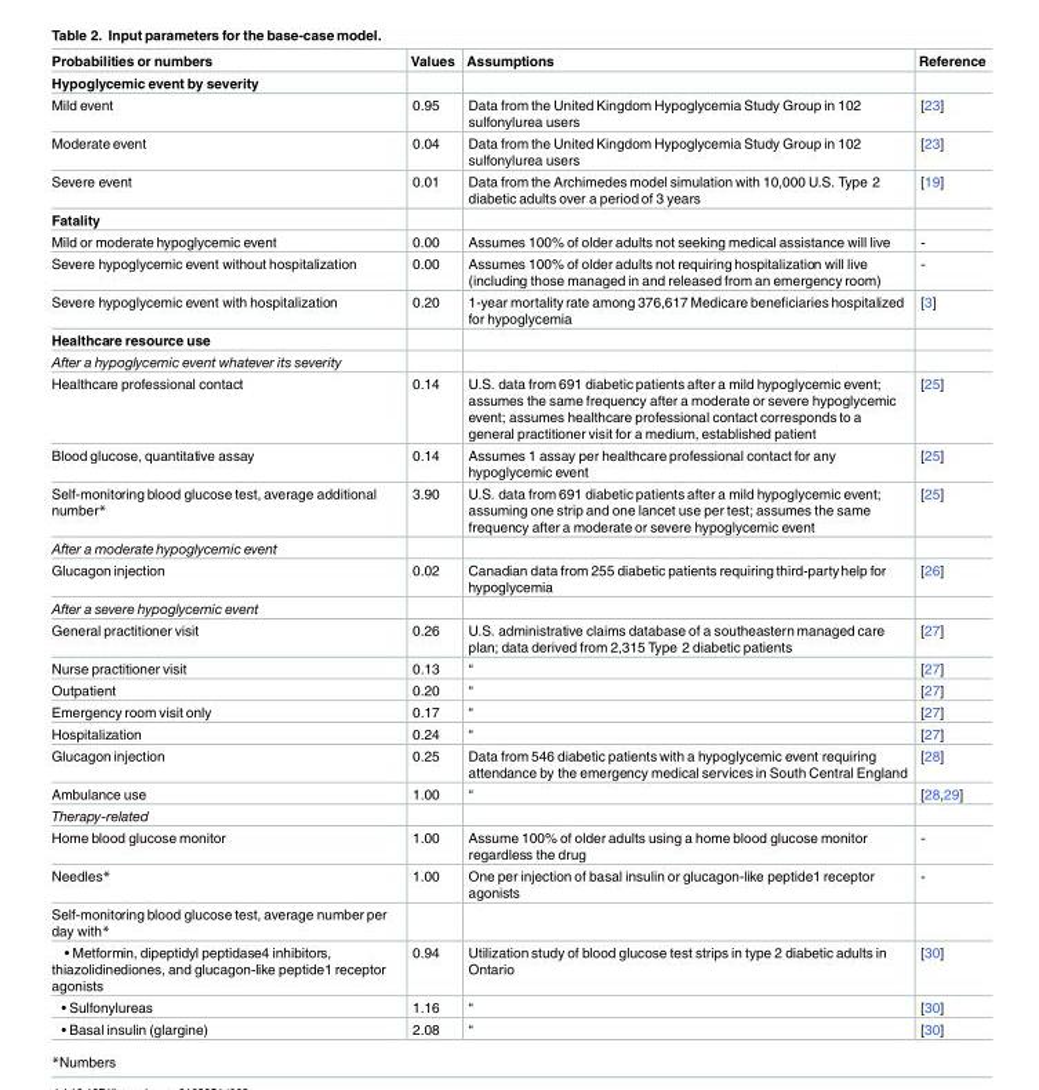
<table><thead><tr><td>Probabilities or numbers</td><td>Values</td><td>Assumptions</td><td>Reference</td></tr></thead><tbody><tr><td colspan="4">Hypoglycemic event by severity</td></tr><tr><td>Mild event</td><td>0.95</td><td>Data from the United Kingdom Hypoglycemia Study Group in 102 sulfonylurea users</td><td>[23]</td></tr><tr><td>Moderate event</td><td>0.04</td><td>Data from the United Kingdom Hypoglycemia Study Group in 102 sulfonylurea users</td><td>[23]</td></tr><tr><td>Severe event</td><td>0.01</td><td>Data from the Archimedes model simulation with 10,000 U.S. Type 2 diabetic adults over a period of 3 years</td><td>[19]</td></tr><tr><td colspan="4">Fatality</td></tr><tr><td>Mild or moderate hypoglycemic event</td><td>0.00</td><td>Assumes 100% of older adults not seeking medical assistance will live</td><td>-</td></tr><tr><td>Severe hypoglycemic event without hospitalization</td><td>0.00</td><td>Assumes 100% of older adults not requiring hospitalization will live (including those managed in and released from an emergency room)</td><td>-</td></tr><tr><td>Severe hypoglycemic event with hospitalization</td><td>0.20</td><td>1-year mortalityrate among 376,617 Medicare beneficiaries hospitalized for hypoglycemia</td><td>[3]</td></tr><tr><td colspan="4">Healthcare resource use</td></tr><tr><td colspan="4">After a hypoglycemic event whatever its severity</td></tr><tr><td>Healthcare professional contact</td><td>0.14</td><td>U.S. data from 691 diabetic patients after a mild hypoglycemic event; assumes the same frequency after a moderate or severe hypoglycemic event; assumes healthcare professional contact corresponds to a general practitioner visit for a medium, established patient</td><td>[25]</td></tr><tr><td>Blood glucose, quantitative assay</td><td>0.14</td><td>Assumes 1 assay per healthcare professional contact for any hypoglycemic event</td><td>[25]</td></tr><tr><td>Self-monitoring blood glucose test, average additional number*</td><td>3.90</td><td>U.S. data from 691 diabetic patients after a mild hypoglycemic event; assuming one strip and one lancet use per test; assumes the same frequency after a moderate or severe hypoglycemic event</td><td>[25]</td></tr><tr><td colspan="4">After a moderate hypoglycemic event</td></tr><tr><td>Glucagon injection</td><td>0.02</td><td>Canadian data from 255 diabetic patients requiring third-partyhelp for hypoglycemia</td><td>[26]</td></tr><tr><td colspan="4">After a severe hypoglycemic event</td></tr><tr><td>General practitioner visit</td><td>0.26</td><td>U.S. administrative claims database of a southeastern managed care plan; data derived from 2,315 Type 2 diabetic patients</td><td>[27]</td></tr><tr><td>Nurse practitioner visit</td><td>0.13</td><td>“</td><td>[27]</td></tr><tr><td>Outpatient</td><td>0.20</td><td>“</td><td>[27]</td></tr><tr><td>Emergency room visit only</td><td>0.17</td><td>“</td><td>[27]</td></tr><tr><td>Hospitalization</td><td>0.24</td><td>“</td><td>[27]</td></tr><tr><td>Glucagon injection</td><td>0.25</td><td>Data from 546 diabetic patients with a hypoglycemic event requiring attendance by the emergency medical services in South Central England</td><td>[28]</td></tr><tr><td>Ambulance use</td><td>1.00</td><td>“</td><td>[28,29]</td></tr><tr><td colspan="4">Therapy-related</td></tr><tr><td>Home blood glucose monitor</td><td>1.00</td><td>Assume 100% of older adults using a home blood glucose monitor regardless the drug</td><td>-</td></tr><tr><td>Needles*</td><td>1.00</td><td>One per injection of basal insulin or glucagon-like peptide1 receptor agonists</td><td>-</td></tr><tr><td colspan="4">Self-monitoring blood glucose test, average number per day with*</td></tr><tr><td>• Metformin, dipeptidyl peptidase4 inhibitors, thiazolidinediones, and glucagon-like peptide1 receptor agonists</td><td>0.94</td><td>Utilization study of blood glucose test strips in type 2 diabetic adults in Ontario</td><td>[30]</td></tr><tr><td>• Sulfonylureas</td><td>1.16</td><td>“</td><td>[30]</td></tr><tr><td>• Basal insulin (glargine)</td><td>2.08</td><td>“</td><td>[30]</td></tr></tbody></table>